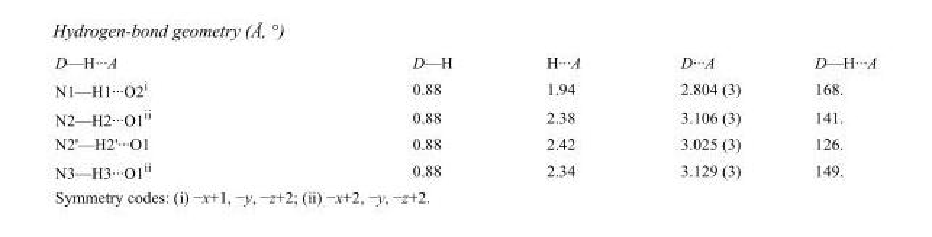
<table><tbody><tr><td>D—H···A</td><td>D—H</td><td>H···A</td><td>D···A</td><td>D—H···A</td></tr><tr><td>N1—H1···O2<sup>i</sup></td><td>0.88</td><td>1.94</td><td>2.804 (3)</td><td>168.</td></tr><tr><td>N2—H2···O1<sup>ii</sup></td><td>0.88</td><td>2.38</td><td>3.106 (3)</td><td>141.</td></tr><tr><td>N2&#x27;—H2&#x27;···O1</td><td>0.88</td><td>2.42</td><td>3.025 (3)</td><td>126.</td></tr><tr><td>N3—H3···O1<sup>ii</sup></td><td>0.88</td><td>2.34</td><td>3.129 (3)</td><td>149.</td></tr></tbody></table>